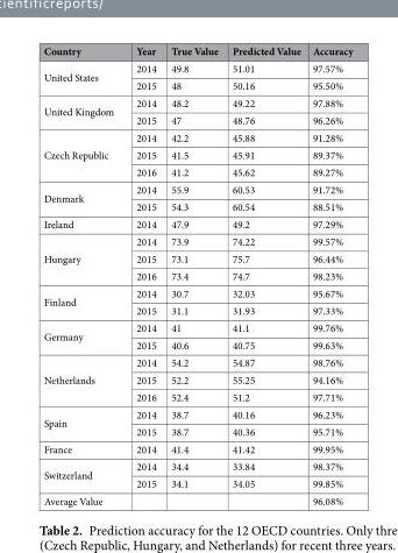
<table><thead><tr><td>Country</td><td>Year</td><td>True Value</td><td>Predicted Value</td><td>Accuracy</td></tr></thead><tbody><tr><td rowspan="2">United States</td><td>2014</td><td>49.8</td><td>51.01</td><td>97.57%</td></tr><tr><td>2015</td><td>48</td><td>50.16</td><td>95.50%</td></tr><tr><td rowspan="2">United Kingdom</td><td>2014</td><td>48.2</td><td>49.22</td><td>97.88%</td></tr><tr><td>2015</td><td>47</td><td>48.76</td><td>96.26%</td></tr><tr><td rowspan="3">Czech Republic</td><td>2014</td><td>42.2</td><td>45.88</td><td>91.28%</td></tr><tr><td>2015</td><td>41.5</td><td>45.91</td><td>89.37%</td></tr><tr><td>2016</td><td>41.2</td><td>45.62</td><td>89.27%</td></tr><tr><td rowspan="2">Denmark</td><td>2014</td><td>55.9</td><td>60.53</td><td>91.72%</td></tr><tr><td>2015</td><td>54.3</td><td>60.54</td><td>88.51%</td></tr><tr><td>Ireland</td><td>2014</td><td>47.9</td><td>49.2</td><td>97.29%</td></tr><tr><td rowspan="3">Hungary</td><td>2014</td><td>73.9</td><td>74.22</td><td>99.57%</td></tr><tr><td>2015</td><td>73.1</td><td>75.7</td><td>96.44%</td></tr><tr><td>2016</td><td>73.4</td><td>74.7</td><td>98.23%</td></tr><tr><td rowspan="2">Finland</td><td>2014</td><td>30.7</td><td>32.03</td><td>95.67%</td></tr><tr><td>2015</td><td>31.1</td><td>31.93</td><td>97.33%</td></tr><tr><td rowspan="2">Germany</td><td>2014</td><td>41</td><td>41.1</td><td>99.76%</td></tr><tr><td>2015</td><td>40.6</td><td>40.75</td><td>99.63%</td></tr><tr><td rowspan="3">Netherlands</td><td>2014</td><td>54.2</td><td>54.87</td><td>98.76%</td></tr><tr><td>2015</td><td>52.2</td><td>55.25</td><td>94.16%</td></tr><tr><td>2016</td><td>52.4</td><td>51.2</td><td>97.71%</td></tr><tr><td rowspan="2">Spain</td><td>2014</td><td>38.7</td><td>40.16</td><td>96.23%</td></tr><tr><td>2015</td><td>38.7</td><td>40.36</td><td>95.71%</td></tr><tr><td>France</td><td>2014</td><td>41.4</td><td>41.42</td><td>99.95%</td></tr><tr><td rowspan="2">Switzerland</td><td>2014</td><td>34.4</td><td>33.84</td><td>98.37%</td></tr><tr><td>2015</td><td>34.1</td><td>34.05</td><td>99.85%</td></tr><tr><td>Average Value</td><td></td><td></td><td></td><td>96.08%</td></tr></tbody></table>